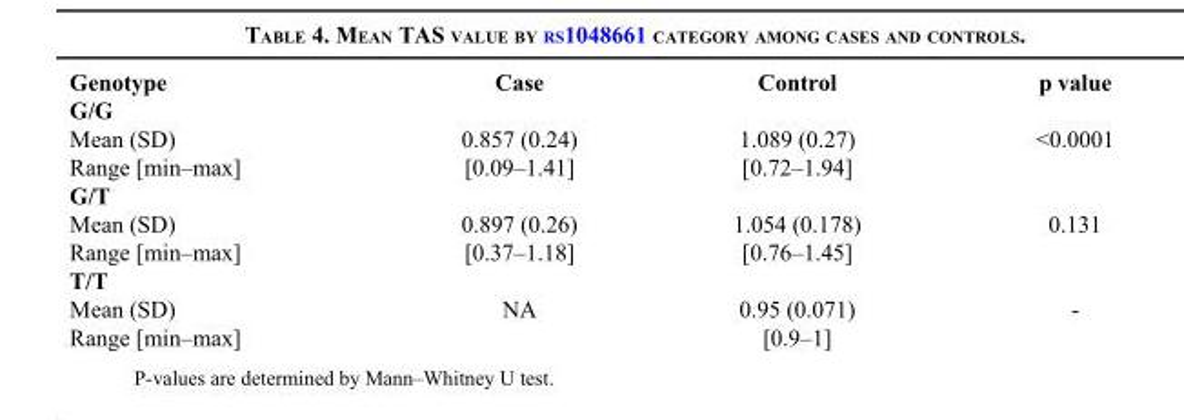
<table><thead><tr><td>Genotype</td><td>Case</td><td>Control</td><td>p value</td></tr></thead><tbody><tr><td colspan="4">G/G</td></tr><tr><td>Mean (SD)</td><td>0.857 (0.24)</td><td>1.089 (0.27)</td><td>&lt;0.0001</td></tr><tr><td>Range [min–max]</td><td>[0.09–1.41]</td><td>[0.72–1.94]</td><td></td></tr><tr><td colspan="4">G/T</td></tr><tr><td>Mean (SD)</td><td>0.897 (0.26)</td><td>1.054 (0.178)</td><td>0.131</td></tr><tr><td>Range [min–max]</td><td>[0.37–1.18]</td><td>[0.76–1.45]</td><td></td></tr><tr><td colspan="4">T/T</td></tr><tr><td>Mean (SD)</td><td>NA</td><td>0.95 (0.071)</td><td>-</td></tr><tr><td>Range [min–max]</td><td></td><td>[0.9–1]</td><td></td></tr></tbody></table>